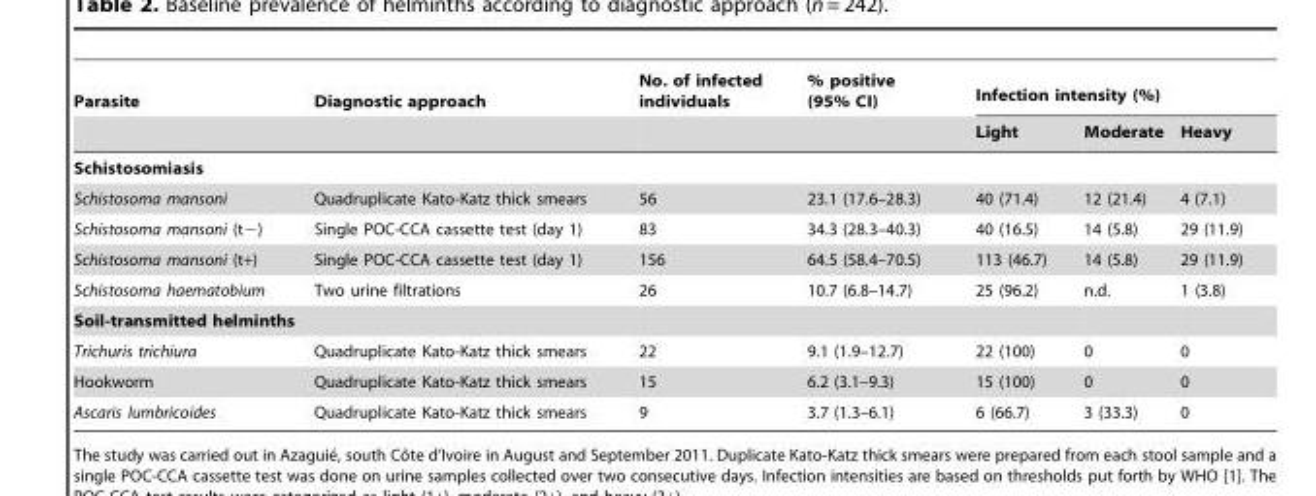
<table><thead><tr><td rowspan="2">Parasite</td><td rowspan="2">Diagnostic approach</td><td rowspan="2">No. of infected individuals</td><td rowspan="2">% positive (95% CI)</td><td colspan="3">Infection intensity (%)</td></tr><tr><td>Light</td><td>Moderate</td><td>Heavy</td></tr></thead><tbody><tr><td colspan="7">Schistosomiasis</td></tr><tr><td>Schistosoma mansoni</td><td>Quadruplicate Kato-Katz thick smears</td><td>56</td><td>23.1 (17.6–28.3)</td><td>40 (71.4)</td><td>12 (21.4)</td><td>4 (7.1)</td></tr><tr><td>Schistosoma mansoni (t−)</td><td>Single POC-CCA cassette test (day 1)</td><td>83</td><td>34.3 (28.3–40.3)</td><td>40 (16.5)</td><td>14 (5.8)</td><td>29 (11.9)</td></tr><tr><td>Schistosoma mansoni (t+)</td><td>Single POC-CCA cassette test (day 1)</td><td>156</td><td>64.5 (58.4–70.5)</td><td>113 (46.7)</td><td>14 (5.8)</td><td>29 (11.9)</td></tr><tr><td>Schistosoma haematobium</td><td>Two urine filtrations</td><td>26</td><td>10.7 (6.8–14.7)</td><td>25 (96.2)</td><td>n.d.</td><td>1 (3.8)</td></tr><tr><td colspan="7">Soil-transmitted helminths</td></tr><tr><td>Trichuris trichiura</td><td>Quadruplicate Kato-Katz thick smears</td><td>22</td><td>9.1 (1.9–12.7)</td><td>22 (100)</td><td>0</td><td>0</td></tr><tr><td>Hookworm</td><td>Quadruplicate Kato-Katz thick smears</td><td>15</td><td>6.2 (3.1–9.3)</td><td>15 (100)</td><td>0</td><td>0</td></tr><tr><td>Ascaris lumbricoides</td><td>Quadruplicate Kato-Katz thick smears</td><td>9</td><td>3.7 (1.3–6.1)</td><td>6 (66.7)</td><td>3 (33.3)</td><td>0</td></tr></tbody></table>